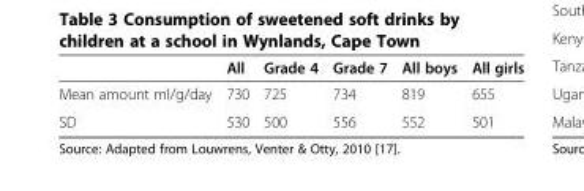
<table><thead><tr><td></td><td>All</td><td>Grade 4</td><td>Grade 7</td><td>All boys</td><td>All girls</td></tr></thead><tbody><tr><td>Mean amount ml/g/day</td><td>730</td><td>725</td><td>734</td><td>819</td><td>655</td></tr><tr><td>SD</td><td>530</td><td>500</td><td>556</td><td>552</td><td>501</td></tr></tbody></table>